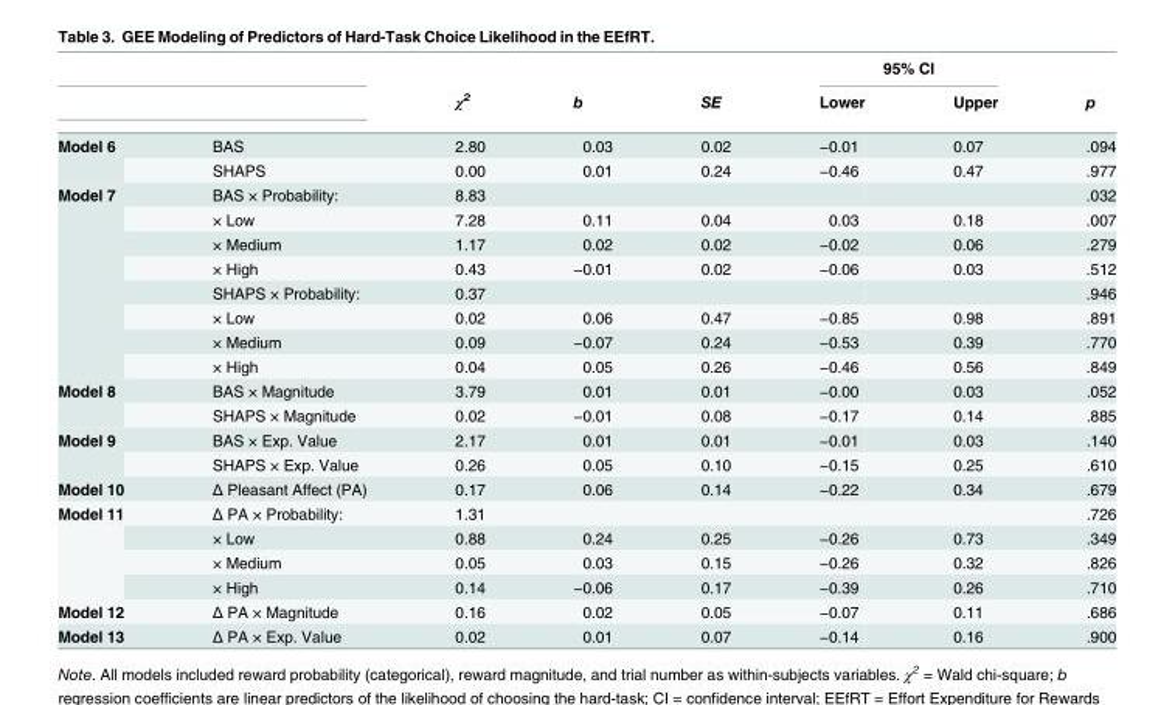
<table><thead><tr><td rowspan="2"></td><td rowspan="2"></td><td rowspan="2">χ<sup>2</sup></td><td rowspan="2">b</td><td rowspan="2">SE</td><td colspan="2">95% CI</td><td rowspan="2">p</td></tr><tr><td>Lower</td><td>Upper</td></tr></thead><tbody><tr><td rowspan="2">Model 6</td><td>BAS</td><td>2.80</td><td>0.03</td><td>0.02</td><td>−0.01</td><td>0.07</td><td>.094</td></tr><tr><td>SHAPS</td><td>0.00</td><td>0.01</td><td>0.24</td><td>−0.46</td><td>0.47</td><td>.977</td></tr><tr><td rowspan="8">Model 7</td><td>BAS × Probability:</td><td>8.83</td><td></td><td></td><td></td><td></td><td>.032</td></tr><tr><td>× Low</td><td>7.28</td><td>0.11</td><td>0.04</td><td>0.03</td><td>0.18</td><td>.007</td></tr><tr><td>× Medium</td><td>1.17</td><td>0.02</td><td>0.02</td><td>−0.02</td><td>0.06</td><td>.279</td></tr><tr><td>× High</td><td>0.43</td><td>−0.01</td><td>0.02</td><td>−0.06</td><td>0.03</td><td>.512</td></tr><tr><td>SHAPS × Probability:</td><td>0.37</td><td></td><td></td><td></td><td></td><td>.946</td></tr><tr><td>× Low</td><td>0.02</td><td>0.06</td><td>0.47</td><td>−0.85</td><td>0.98</td><td>.891</td></tr><tr><td>× Medium</td><td>0.09</td><td>−0.07</td><td>0.24</td><td>−0.53</td><td>0.39</td><td>.770</td></tr><tr><td>× High</td><td>0.04</td><td>0.05</td><td>0.26</td><td>−0.46</td><td>0.56</td><td>.849</td></tr><tr><td rowspan="2">Model 8</td><td>BAS × Magnitude</td><td>3.79</td><td>0.01</td><td>0.01</td><td>−0.00</td><td>0.03</td><td>.052</td></tr><tr><td>SHAPS × Magnitude</td><td>0.02</td><td>−0.01</td><td>0.08</td><td>−0.17</td><td>0.14</td><td>.885</td></tr><tr><td rowspan="2">Model 9</td><td>BAS × Exp. Value</td><td>2.17</td><td>0.01</td><td>0.01</td><td>−0.01</td><td>0.03</td><td>.140</td></tr><tr><td>SHAPS × Exp. Value</td><td>0.26</td><td>0.05</td><td>0.10</td><td>−0.15</td><td>0.25</td><td>.610</td></tr><tr><td>Model 10</td><td>Δ Pleasant Affect (PA)</td><td>0.17</td><td>0.06</td><td>0.14</td><td>−0.22</td><td>0.34</td><td>.679</td></tr><tr><td rowspan="4">Model 11</td><td>Δ PA × Probability:</td><td>1.31</td><td></td><td></td><td></td><td></td><td>.726</td></tr><tr><td>× Low</td><td>0.88</td><td>0.24</td><td>0.25</td><td>−0.26</td><td>0.73</td><td>.349</td></tr><tr><td>× Medium</td><td>0.05</td><td>0.03</td><td>0.15</td><td>−0.26</td><td>0.32</td><td>.826</td></tr><tr><td>× High</td><td>0.14</td><td>−0.06</td><td>0.17</td><td>−0.39</td><td>0.26</td><td>.710</td></tr><tr><td>Model 12</td><td>Δ PA × Magnitude</td><td>0.16</td><td>0.02</td><td>0.05</td><td>−0.07</td><td>0.11</td><td>.686</td></tr><tr><td>Model 13</td><td>Δ PA × Exp. Value</td><td>0.02</td><td>0.01</td><td>0.07</td><td>−0.14</td><td>0.16</td><td>.900</td></tr></tbody></table>